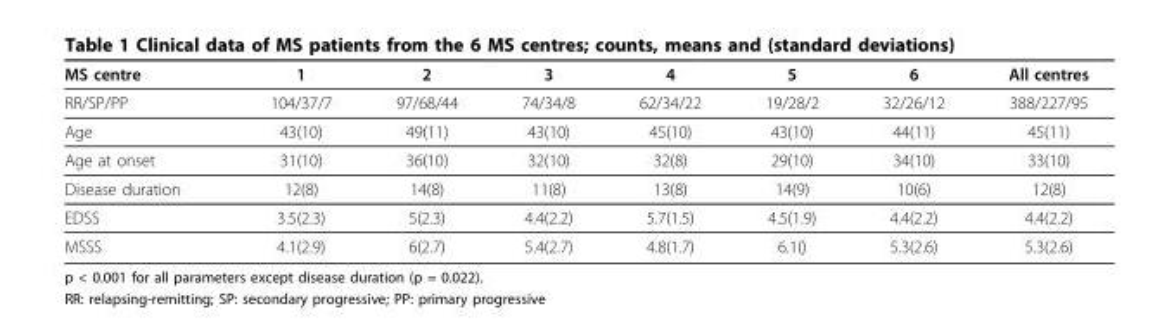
<table><thead><tr><td>MS centre</td><td>1</td><td>2</td><td>3</td><td>4</td><td>5</td><td>6</td><td>All centres</td></tr></thead><tbody><tr><td>RR/SP/PP</td><td>104/37/7</td><td>97/68/44</td><td>74/34/8</td><td>62/34/22</td><td>19/28/2</td><td>32/26/12</td><td>388/227/95</td></tr><tr><td>Age</td><td>43(10)</td><td>49(11)</td><td>43(10)</td><td>45(10)</td><td>43(10)</td><td>44(11)</td><td>45(11)</td></tr><tr><td>Age at onset</td><td>31(10)</td><td>36(10)</td><td>32(10)</td><td>32(8)</td><td>29(10)</td><td>34(10)</td><td>33(10)</td></tr><tr><td>Disease duration</td><td>12(8)</td><td>14(8)</td><td>11(8)</td><td>13(8)</td><td>14(9)</td><td>10(6)</td><td>12(8)</td></tr><tr><td>EDSS</td><td>3.5(2.3)</td><td>5(2.3)</td><td>4.4(2.2)</td><td>5.7(1.5)</td><td>4.5(1.9)</td><td>4.4(2.2)</td><td>4.4(2.2)</td></tr><tr><td>MSSS</td><td>4.1(2.9)</td><td>6(2.7)</td><td>5.4(2.7)</td><td>4.8(1.7)</td><td>6.1()</td><td>5.3(2.6)</td><td>5.3(2.6)</td></tr></tbody></table>